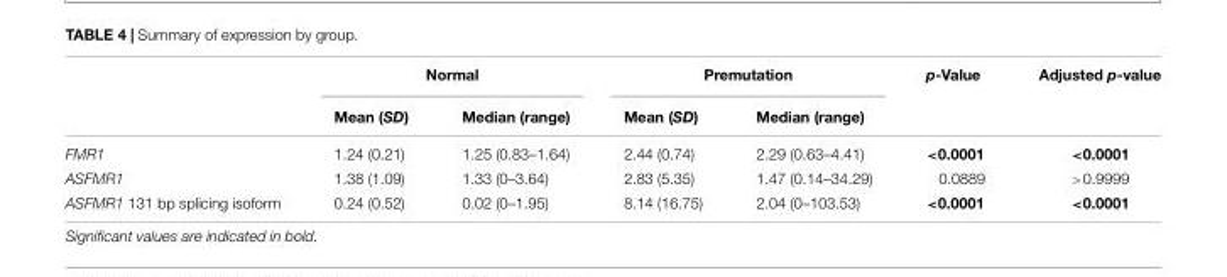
<table><thead><tr><td rowspan="2"></td><td colspan="2">Normal</td><td colspan="2">Premutation</td><td rowspan="2">p-Value</td><td rowspan="2">Adjusted p-value</td></tr><tr><td>Mean (SD)</td><td>Median (range)</td><td>Mean (SD)</td><td>Median (range)</td></tr></thead><tbody><tr><td>FMR1</td><td>1.24 (0.21)</td><td>1.25 (0.83–1.64)</td><td>2.44 (0.74)</td><td>2.29 (0.63–4.41)</td><td>&lt;0.0001</td><td>&lt;0.0001</td></tr><tr><td>ASFMR1</td><td>1.38 (1.09)</td><td>1.33 (0–3.64)</td><td>2.83 (5.35)</td><td>1.47 (0.14–34.29)</td><td>0.0889</td><td>&gt;0.9999</td></tr><tr><td>ASFMR1 131 bp splicing isoform</td><td>0.24 (0.52)</td><td>0.02 (0–1.95)</td><td>8.14 (16.75)</td><td>2.04 (0–103.53)</td><td>&lt;0.0001</td><td>&lt;0.0001</td></tr></tbody></table>